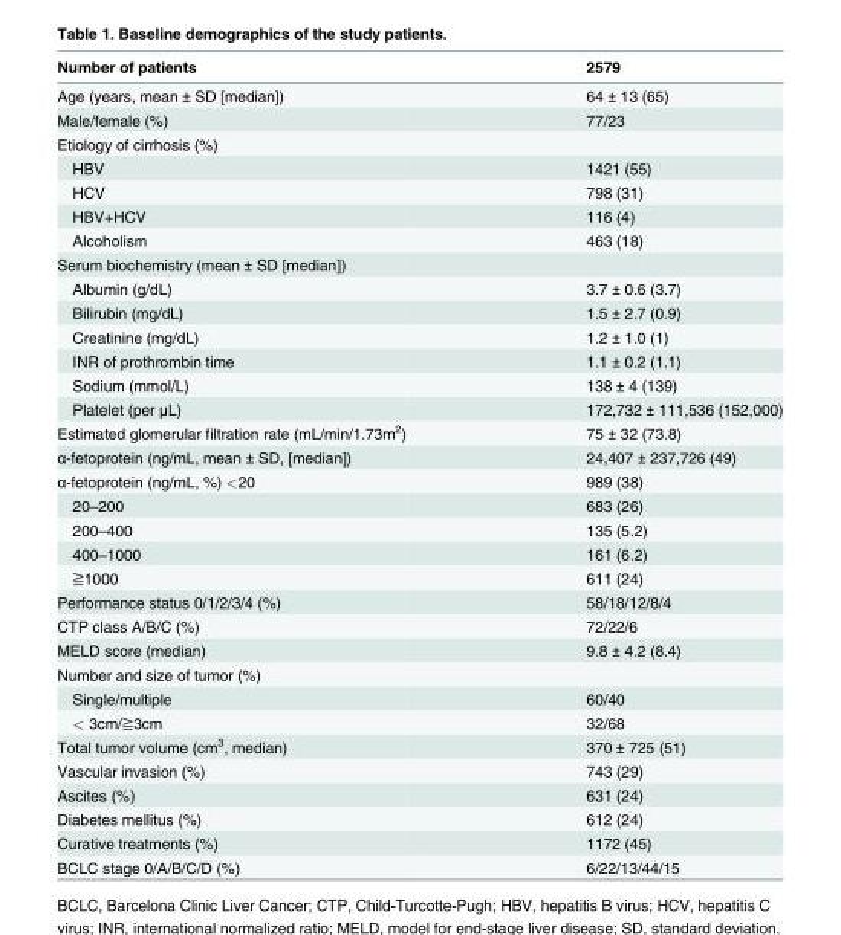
<table><thead><tr><td>Number of patients</td><td>2579</td></tr></thead><tbody><tr><td>Age (years, mean ± SD [median])</td><td>64 ± 13 (65)</td></tr><tr><td>Male/female (%)</td><td>77/23</td></tr><tr><td colspan="2">Etiology of cirrhosis (%)</td></tr><tr><td>HBV</td><td>1421 (55)</td></tr><tr><td>HCV</td><td>798 (31)</td></tr><tr><td>HBV+HCV</td><td>116 (4)</td></tr><tr><td>Alcoholism</td><td>463 (18)</td></tr><tr><td colspan="2">Serum biochemistry (mean ± SD [median])</td></tr><tr><td>Albumin (g/dL)</td><td>3.7 ± 0.6 (3.7)</td></tr><tr><td>Bilirubin (mg/dL)</td><td>1.5 ± 2.7 (0.9)</td></tr><tr><td>Creatinine (mg/dL)</td><td>1.2 ± 1.0 (1)</td></tr><tr><td>INR of prothrombin time</td><td>1.1 ± 0.2 (1.1)</td></tr><tr><td>Sodium (mmol/L)</td><td>138 ± 4 (139)</td></tr><tr><td>Platelet (per μL)</td><td>172,732 ± 111,536 (152,000)</td></tr><tr><td>Estimated glomerular filtration rate (mL/min/1.73m<sup>2</sup>)</td><td>75 ± 32 (73.8)</td></tr><tr><td>α-fetoprotein (ng/mL, mean ± SD, [median])</td><td>24,407 ± 237,726 (49)</td></tr><tr><td>α-fetoprotein (ng/mL, %) &lt;20</td><td>989 (38)</td></tr><tr><td>20–200</td><td>683 (26)</td></tr><tr><td>200–400</td><td>135 (5.2)</td></tr><tr><td>400–1000</td><td>161 (6.2)</td></tr><tr><td>≧1000</td><td>611 (24)</td></tr><tr><td>Performance status 0/1/2/3/4 (%)</td><td>58/18/12/8/4</td></tr><tr><td>CTP class A/B/C (%)</td><td>72/22/6</td></tr><tr><td>MELD score (median)</td><td>9.8 ± 4.2 (8.4)</td></tr><tr><td colspan="2">Number and size of tumor (%)</td></tr><tr><td>Single/multiple</td><td>60/40</td></tr><tr><td>&lt; 3cm/≧3cm</td><td>32/68</td></tr><tr><td>Total tumor volume (cm<sup>3</sup>, median)</td><td>370 ± 725 (51)</td></tr><tr><td>Vascular invasion (%)</td><td>743 (29)</td></tr><tr><td>Ascites (%)</td><td>631 (24)</td></tr><tr><td>Diabetes mellitus (%)</td><td>612 (24)</td></tr><tr><td>Curative treatments (%)</td><td>1172 (45)</td></tr><tr><td>BCLC stage 0/A/B/C/D (%)</td><td>6/22/13/44/15</td></tr></tbody></table>